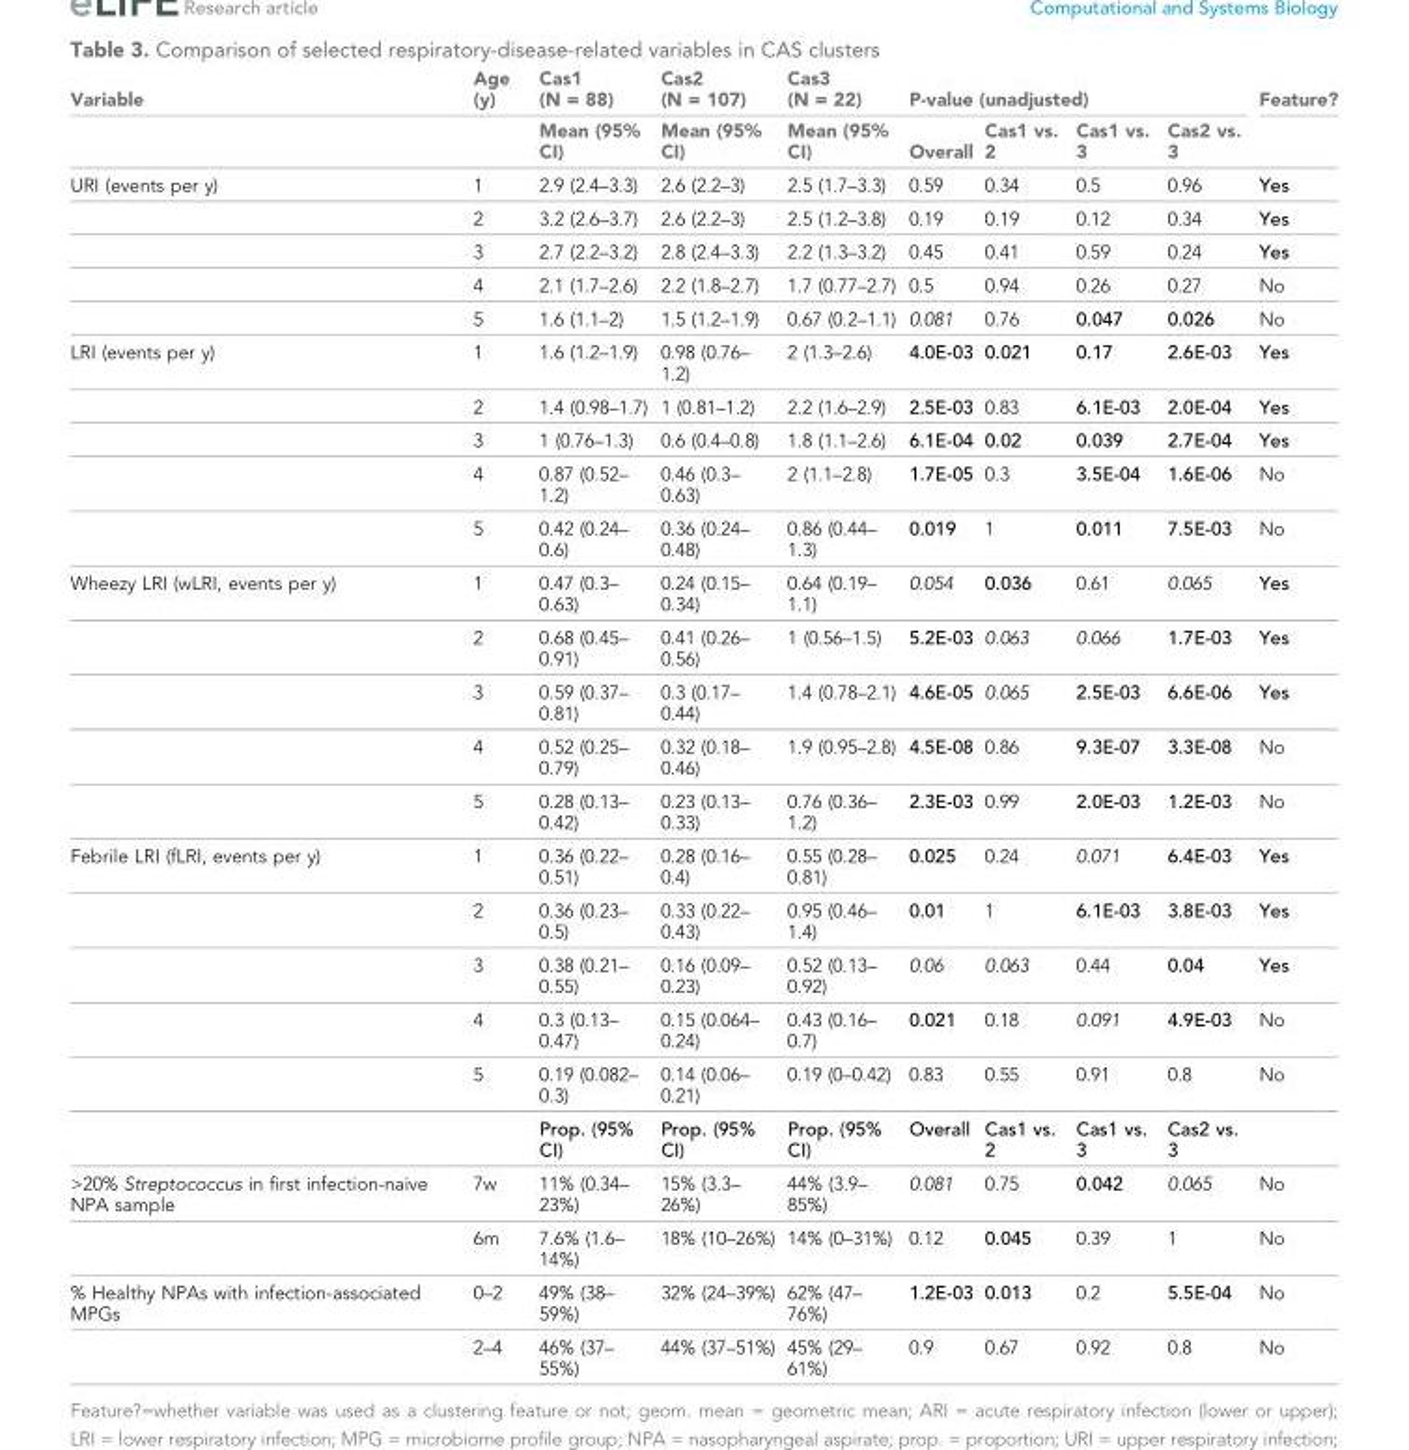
<table><thead><tr><td rowspan="2">Variable</td><td rowspan="2">Age (y)</td><td rowspan="2">Cas1 (N = 88) Mean (95% CI)</td><td rowspan="2">Cas2 (N = 107) Mean (95% CI)</td><td rowspan="2">Cas3 (N = 22) Mean (95% CI)</td><td colspan="4">P-value (unadjusted)</td><td rowspan="2">Feature?</td></tr><tr><td>Overall</td><td>Cas1 vs. 2</td><td>Cas1 vs. 3</td><td>Cas2 vs. 3</td></tr></thead><tbody><tr><td rowspan="5">URI (events per y)</td><td>1</td><td>2.9 (2.4–3.3)</td><td>2.6 (2.2–3)</td><td>2.5 (1.7–3.3)</td><td>0.59</td><td>0.34</td><td>0.5</td><td>0.96</td><td>Yes</td></tr><tr><td>2</td><td>3.2 (2.6–3.7)</td><td>2.6 (2.2–3)</td><td>2.5 (1.2–3.8)</td><td>0.19</td><td>0.19</td><td>0.12</td><td>0.34</td><td>Yes</td></tr><tr><td>3</td><td>2.7 (2.2–3.2)</td><td>2.8 (2.4–3.3)</td><td>2.2 (1.3–3.2)</td><td>0.45</td><td>0.41</td><td>0.59</td><td>0.24</td><td>Yes</td></tr><tr><td>4</td><td>2.1 (1.7–2.6)</td><td>2.2 (1.8–2.7)</td><td>1.7 (0.77–2.7)</td><td>0.5</td><td>0.94</td><td>0.26</td><td>0.27</td><td>No</td></tr><tr><td>5</td><td>1.6 (1.1–2)</td><td>1.5 (1.2–1.9)</td><td>0.67 (0.2–1.1)</td><td>0.081</td><td>0.76</td><td>0.047</td><td>0.026</td><td>No</td></tr><tr><td rowspan="5">LRI (events per y)</td><td>1</td><td>1.6 (1.2–1.9)</td><td>0.98 (0.76– 1.2)</td><td>2 (1.3–2.6)</td><td>4.0E-03</td><td>0.021</td><td>0.17</td><td>2.6E-03</td><td>Yes</td></tr><tr><td>2</td><td>1.4 (0.98–1.7)</td><td>1 (0.81–1.2)</td><td>2.2 (1.6–2.9)</td><td>2.5E-03</td><td>0.83</td><td>6.1E-03</td><td>2.0E-04</td><td>Yes</td></tr><tr><td>3</td><td>1 (0.76–1.3)</td><td>0.6 (0.4–0.8)</td><td>1.8 (1.1–2.6)</td><td>6.1E-04</td><td>0.02</td><td>0.039</td><td>2.7E-04</td><td>Yes</td></tr><tr><td>4</td><td>0.87 (0.52– 1.2)</td><td>0.46 (0.3– 0.63)</td><td>2 (1.1–2.8)</td><td>1.7E-05</td><td>0.3</td><td>3.5E-04</td><td>1.6E-06</td><td>No</td></tr><tr><td>5</td><td>0.42 (0.24– 0.6)</td><td>0.36 (0.24– 0.48)</td><td>0.86 (0.44– 1.3)</td><td>0.019</td><td>1</td><td>0.011</td><td>7.5E-03</td><td>No</td></tr><tr><td rowspan="5">Wheezy LRI (wLRI, events per y)</td><td>1</td><td>0.47 (0.3– 0.63)</td><td>0.24 (0.15– 0.34)</td><td>0.64 (0.19– 1.1)</td><td>0.054</td><td>0.036</td><td>0.61</td><td>0.065</td><td>Yes</td></tr><tr><td>2</td><td>0.68 (0.45– 0.91)</td><td>0.41 (0.26– 0.56)</td><td>1 (0.56–1.5)</td><td>5.2E-03</td><td>0.063</td><td>0.066</td><td>1.7E-03</td><td>Yes</td></tr><tr><td>3</td><td>0.59 (0.37– 0.81)</td><td>0.3 (0.17– 0.44)</td><td>1.4 (0.78–2.1)</td><td>4.6E-05</td><td>0.065</td><td>2.5E-03</td><td>6.6E-06</td><td>Yes</td></tr><tr><td>4</td><td>0.52 (0.25– 0.79)</td><td>0.32 (0.18– 0.46)</td><td>1.9 (0.95–2.8)</td><td>4.5E-08</td><td>0.86</td><td>9.3E-07</td><td>3.3E-08</td><td>No</td></tr><tr><td>5</td><td>0.28 (0.13– 0.42)</td><td>0.23 (0.13– 0.33)</td><td>0.76 (0.36– 1.2)</td><td>2.3E-03</td><td>0.99</td><td>2.0E-03</td><td>1.2E-03</td><td>No</td></tr><tr><td rowspan="6">Febrile LRI (fLRI, events per y)</td><td>1</td><td>0.36 (0.22– 0.51)</td><td>0.28 (0.16– 0.4)</td><td>0.55 (0.28– 0.81)</td><td>0.025</td><td>0.24</td><td>0.071</td><td>6.4E-03</td><td>Yes</td></tr><tr><td>2</td><td>0.36 (0.23– 0.5)</td><td>0.33 (0.22– 0.43)</td><td>0.95 (0.46– 1.4)</td><td>0.01</td><td>1</td><td>6.1E-03</td><td>3.8E-03</td><td>Yes</td></tr><tr><td>3</td><td>0.38 (0.21– 0.55)</td><td>0.16 (0.09– 0.23)</td><td>0.52 (0.13– 0.92)</td><td>0.06</td><td>0.063</td><td>0.44</td><td>0.04</td><td>Yes</td></tr><tr><td>4</td><td>0.3 (0.13– 0.47)</td><td>0.15 (0.064– 0.24)</td><td>0.43 (0.16– 0.7)</td><td>0.021</td><td>0.18</td><td>0.091</td><td>4.9E-03</td><td>No</td></tr><tr><td>5</td><td>0.19 (0.082– 0.3)</td><td>0.14 (0.06– 0.21)</td><td>0.19 (0–0.42)</td><td>0.83</td><td>0.55</td><td>0.91</td><td>0.8</td><td>No</td></tr><tr><td></td><td>Prop. (95% CI)</td><td>Prop. (95% CI)</td><td>Prop. (95% CI)</td><td>Overall</td><td>Cas1 vs. 2</td><td>Cas1 vs. 3</td><td>Cas2 vs. 3</td><td></td></tr><tr><td rowspan="2">&gt;20% Streptococcus in first infection-naive NPA sample</td><td>7w</td><td>11% (0.34– 23%)</td><td>15% (3.3– 26%)</td><td>44% (3.9– 85%)</td><td>0.081</td><td>0.75</td><td>0.042</td><td>0.065</td><td>No</td></tr><tr><td>6m</td><td>7.6% (1.6– 14%)</td><td>18% (10–26%)</td><td>14% (0–31%)</td><td>0.12</td><td>0.045</td><td>0.39</td><td>1</td><td>No</td></tr><tr><td rowspan="2">% Healthy NPAs with infection-associated MPGs</td><td>0–2</td><td>49% (38– 59%)</td><td>32% (24–39%)</td><td>62% (47– 76%)</td><td>1.2E-03</td><td>0.013</td><td>0.2</td><td>5.5E-04</td><td>No</td></tr><tr><td>2–4</td><td>46% (37– 55%)</td><td>44% (37–51%)</td><td>45% (29– 61%)</td><td>0.9</td><td>0.67</td><td>0.92</td><td>0.8</td><td>No</td></tr></tbody></table>